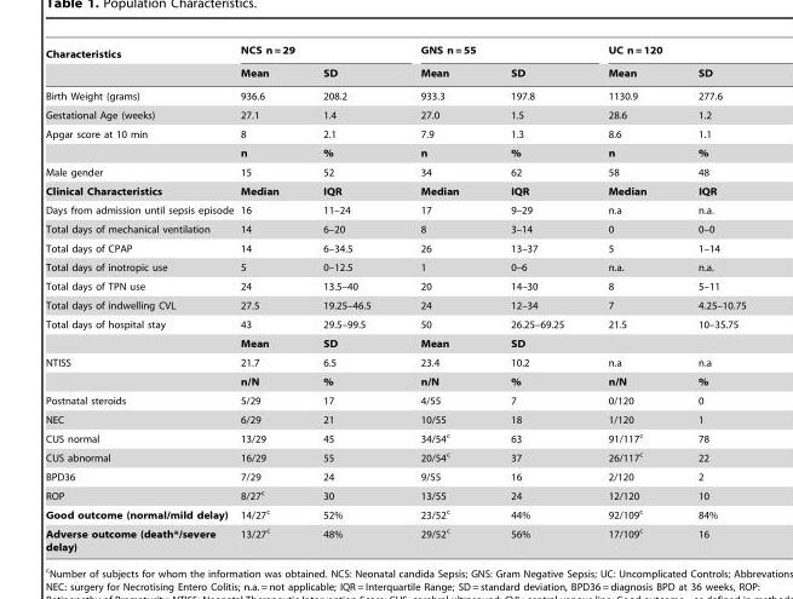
<table><thead><tr><td rowspan="2">Characteristics</td><td colspan="2">NCS n = 29</td><td colspan="2">GNS n = 55</td><td colspan="2">UC n = 120</td></tr><tr><td>Mean</td><td>SD</td><td>Mean</td><td>SD</td><td>Mean</td><td>SD</td></tr></thead><tbody><tr><td>Birth Weight (grams)</td><td>936.6</td><td>208.2</td><td>933.3</td><td>197.8</td><td>1130.9</td><td>277.6</td></tr><tr><td>Gestational Age (weeks)</td><td>27.1</td><td>1.4</td><td>27.0</td><td>1.5</td><td>28.6</td><td>1.2</td></tr><tr><td rowspan="2">Apgar score at 10 min</td><td>8</td><td>2.1</td><td>7.9</td><td>1.3</td><td>8.6</td><td>1.1</td></tr><tr><td>n</td><td>%</td><td>n</td><td>%</td><td>n</td><td>%</td></tr><tr><td>Male gender</td><td>15</td><td>52</td><td>34</td><td>62</td><td>58</td><td>48</td></tr><tr><td>Clinical Characteristics</td><td>Median</td><td>IQR</td><td>Median</td><td>IQR</td><td>Median</td><td>IQR</td></tr><tr><td>Days from admission until sepsis episode</td><td>16</td><td>11–24</td><td>17</td><td>9–29</td><td>n.a</td><td>n.a.</td></tr><tr><td>Total days of mechanical ventilation</td><td>14</td><td>6–20</td><td>8</td><td>3–14</td><td>0</td><td>0–0</td></tr><tr><td>Total days of CPAP</td><td>14</td><td>6–34.5</td><td>26</td><td>13–37</td><td>5</td><td>1–14</td></tr><tr><td>Total days of inotropic use</td><td>5</td><td>0–12.5</td><td>1</td><td>0–6</td><td>n.a.</td><td>n.a.</td></tr><tr><td>Total days of TPN use</td><td>24</td><td>13.5–40</td><td>20</td><td>14–30</td><td>8</td><td>5–11</td></tr><tr><td>Total days of indwelling CVL</td><td>27.5</td><td>19.25–46.5</td><td>24</td><td>12–34</td><td>7</td><td>4.25–10.75</td></tr><tr><td rowspan="2">Total days of hospital stay</td><td>43</td><td>29.5–99.5</td><td>50</td><td>26.25–69.25</td><td>21.5</td><td>10–35.75</td></tr><tr><td>Mean</td><td>SD</td><td>Mean</td><td>SD</td><td></td><td></td></tr><tr><td rowspan="2">NTISS</td><td>21.7</td><td>6.5</td><td>23.4</td><td>10.2</td><td>n.a</td><td>n.a</td></tr><tr><td>n/N</td><td>%</td><td>n/N</td><td>%</td><td>n/N</td><td>%</td></tr><tr><td>Postnatal steroids</td><td>5/29</td><td>17</td><td>4/55</td><td>7</td><td>0/120</td><td>0</td></tr><tr><td>NEC</td><td>6/29</td><td>21</td><td>10/55</td><td>18</td><td>1/120</td><td>1</td></tr><tr><td>CUS normal</td><td>13/29</td><td>45</td><td>34/54<sup>c</sup></td><td>63</td><td>91/117<sup>c</sup></td><td>78</td></tr><tr><td>CUS abnormal</td><td>16/29</td><td>55</td><td>20/54<sup>c</sup></td><td>37</td><td>26/117<sup>c</sup></td><td>22</td></tr><tr><td>BPD36</td><td>7/29</td><td>24</td><td>9/55</td><td>16</td><td>2/120</td><td>2</td></tr><tr><td>ROP</td><td>8/27<sup>c</sup></td><td>30</td><td>13/55</td><td>24</td><td>12/120</td><td>10</td></tr><tr><td>Good outcome (normal/mild delay)</td><td>14/27<sup>c</sup></td><td>52%</td><td>23/52<sup>c</sup></td><td>44%</td><td>92/109<sup>c</sup></td><td>84%</td></tr><tr><td>Adverse outcome (death*/severe delay)</td><td>13/27<sup>c</sup></td><td>48%</td><td>29/52<sup>c</sup></td><td>56%</td><td>17/109<sup>c</sup></td><td>16</td></tr></tbody></table>